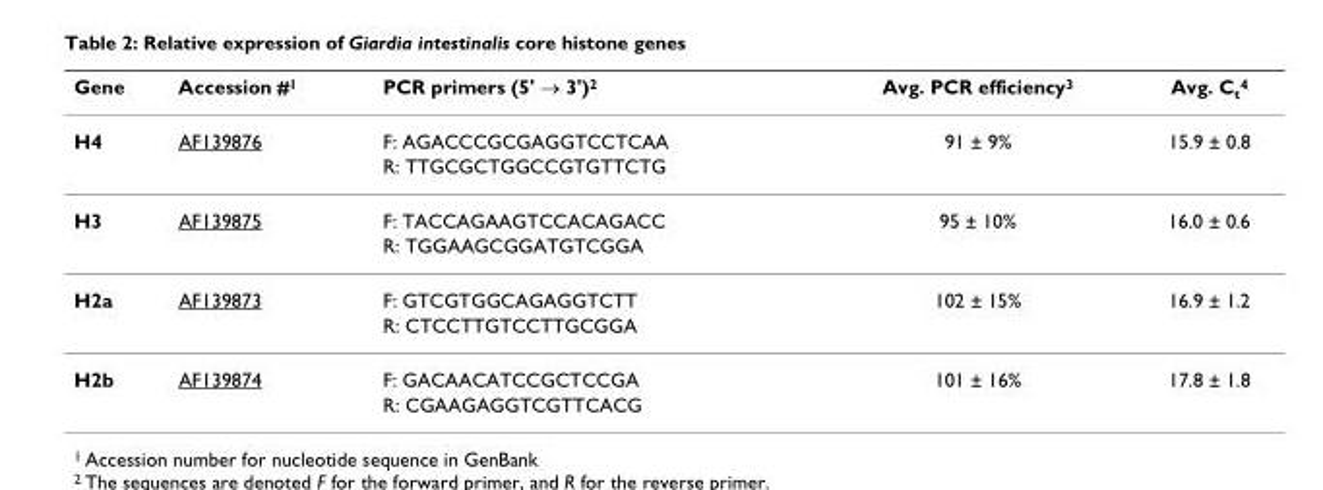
<table><thead><tr><td>Gene</td><td>Accession #1</td><td>PCR primers (5&#x27; → 3&#x27;)2</td><td>Avg. PCR efficiency3</td><td>Avg. Ct4</td></tr></thead><tbody><tr><td rowspan="2">H4</td><td>AF139876</td><td>F: AGACCCGCGAGGTCCTCAA</td><td>91 ± 9%</td><td>15.9 ± 0.8</td></tr><tr><td></td><td>R: TTGCGCTGGCCGTGTTCTG</td><td></td><td></td></tr><tr><td rowspan="2">H3</td><td>AF139875</td><td>F: TACCAGAAGTCCACAGACC</td><td>95 ± 10%</td><td>16.0 ± 0.6</td></tr><tr><td></td><td>R: TGGAAGCGGATGTCGGA</td><td></td><td></td></tr><tr><td rowspan="2">H2a</td><td>AF139873</td><td>F: GTCGTGGCAGAGGTCTT</td><td>102 ± 15%</td><td>16.9 ± 1.2</td></tr><tr><td></td><td>R: CTCCTTGTCCTTGCGGA</td><td></td><td></td></tr><tr><td rowspan="2">H2b</td><td>AF139874</td><td>F: GACAACATCCGCTCCGA</td><td>101 ± 16%</td><td>17.8 ± 1.8</td></tr><tr><td></td><td>R: CGAAGAGGTCGTTCACG</td><td></td><td></td></tr></tbody></table>